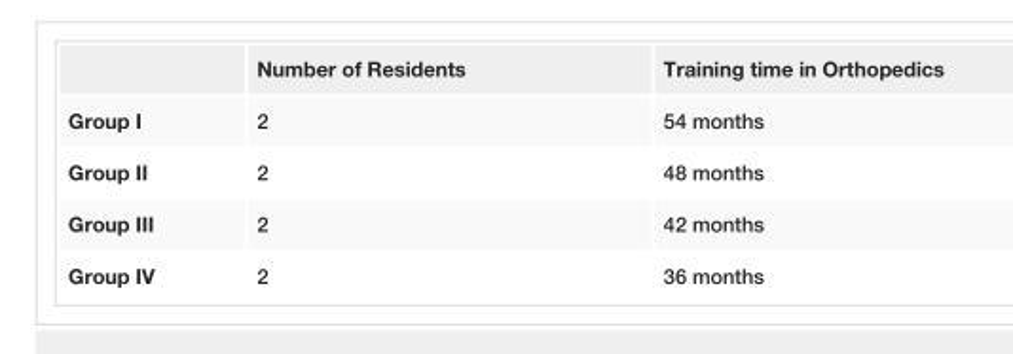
<table><thead><tr><td></td><td>Number of Residents</td><td>Training time in Orthopedics</td></tr></thead><tbody><tr><td>Group I</td><td>2</td><td>54 months</td></tr><tr><td>Group II</td><td>2</td><td>48 months</td></tr><tr><td>Group III</td><td>2</td><td>42 months</td></tr><tr><td>Group IV</td><td>2</td><td>36 months</td></tr></tbody></table>